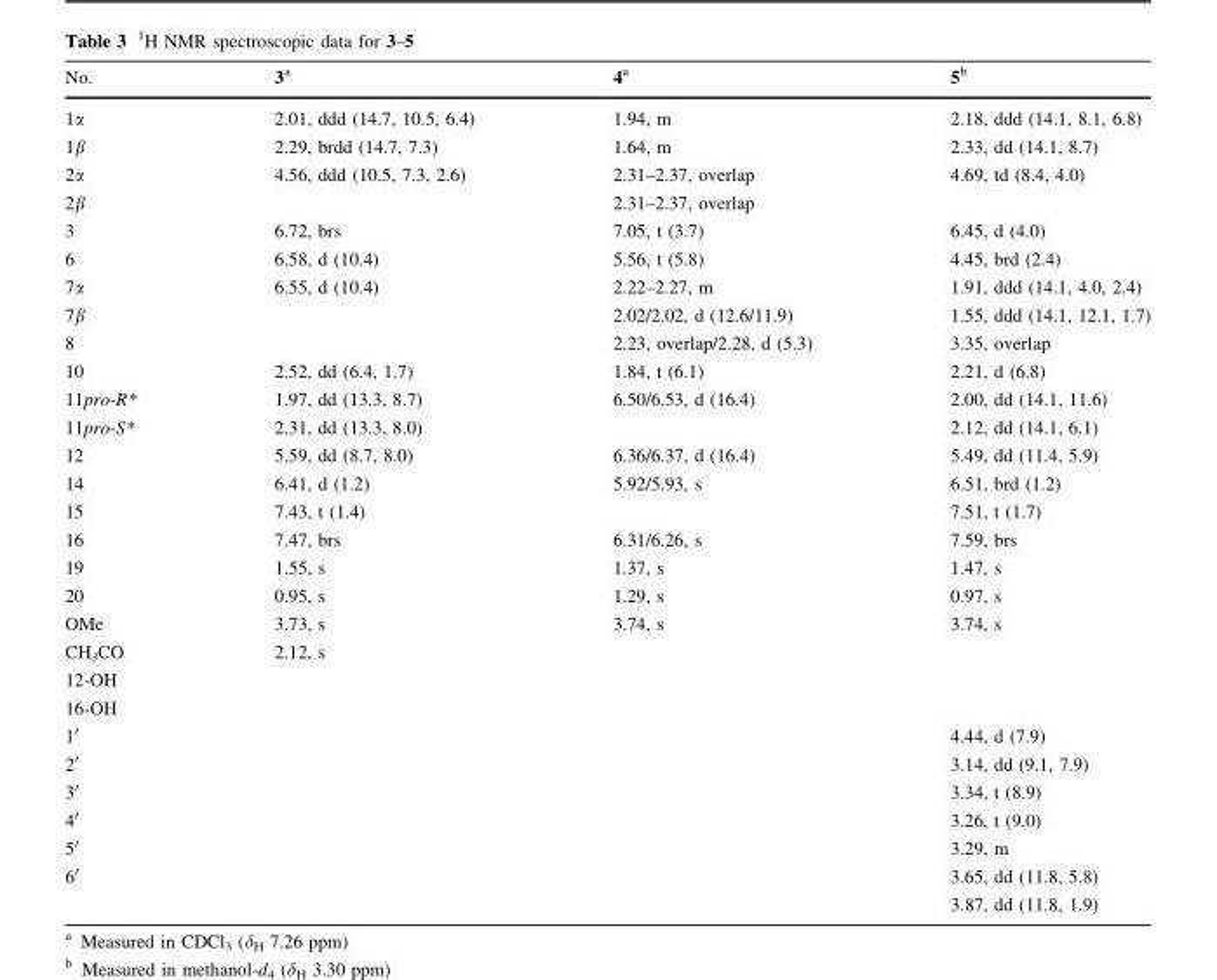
<table><thead><tr><td>No.</td><td>3<sup>a</sup></td><td>4<sup>a</sup></td><td>5<sup>b</sup></td></tr></thead><tbody><tr><td>1α</td><td>2.01, ddd (14.7, 10.5, 6.4)</td><td>1.94, m</td><td>2.18, ddd (14.1, 8.1, 6.8)</td></tr><tr><td>1β</td><td>2.29, brdd (14.7, 7.3)</td><td>1.64, m</td><td>2.33, dd (14.1, 8.7)</td></tr><tr><td>2α</td><td>4.56, ddd (10.5, 7.3, 2.6)</td><td>2.31–2.37, overlap</td><td>4.69, td (8.4, 4.0)</td></tr><tr><td>2β</td><td></td><td>2.31–2.37, overlap</td><td></td></tr><tr><td>3</td><td>6.72, brs</td><td>7.05, t (3.7)</td><td>6.45, d (4.0)</td></tr><tr><td>6</td><td>6.58, d (10.4)</td><td>5.56, t (5.8)</td><td>4.45, brd (2.4)</td></tr><tr><td>7α</td><td>6.55, d (10.4)</td><td>2.22–2.27, m</td><td>1.91, ddd (14.1, 4.0, 2.4)</td></tr><tr><td>7β</td><td></td><td>2.02/2.02, d (12.6/11.9)</td><td>1.55, ddd (14.1, 12.1, 1.7)</td></tr><tr><td>8</td><td></td><td>2.23, overlap/2.28, d (5.3)</td><td>3.35, overlap</td></tr><tr><td>10</td><td>2.52, dd (6.4, 1.7)</td><td>1.84, t (6.1)</td><td>2.21, d (6.8)</td></tr><tr><td>11pro-R*</td><td>1.97, dd (13.3, 8.7)</td><td>6.50/6.53, d (16.4)</td><td>2.00, dd (14.1, 11.6)</td></tr><tr><td>11pro-S*</td><td>2.31, dd (13.3, 8.0)</td><td></td><td>2.12, dd (14.1, 6.1)</td></tr><tr><td>12</td><td>5.59, dd (8.7, 8.0)</td><td>6.36/6.37, d (16.4)</td><td>5.49, dd (11.4, 5.9)</td></tr><tr><td>14</td><td>6.41, d (1.2)</td><td>5.92/5.93, s</td><td>6.51, brd (1.2)</td></tr><tr><td>15</td><td>7.43, t (1.4)</td><td></td><td>7.51, t (1.7)</td></tr><tr><td>16</td><td>7.47, brs</td><td>6.31/6.26, s</td><td>7.59, brs</td></tr><tr><td>19</td><td>1.55, s</td><td>1.37, s</td><td>1.47, s</td></tr><tr><td>20</td><td>0.95, s</td><td>1.29, s</td><td>0.97, s</td></tr><tr><td>OMe</td><td>3.73, s</td><td>3.74, s</td><td>3.74, s</td></tr><tr><td>CH<sub>3</sub>CO</td><td>2.12, s</td><td></td><td></td></tr><tr><td colspan="4">12-OH</td></tr><tr><td colspan="4">16-OH</td></tr><tr><td>1′</td><td></td><td></td><td>4.44, d (7.9)</td></tr><tr><td>2′</td><td></td><td></td><td>3.14, dd (9.1, 7.9)</td></tr><tr><td>3′</td><td></td><td></td><td>3.34, t (8.9)</td></tr><tr><td>4′</td><td></td><td></td><td>3.26, t (9.0)</td></tr><tr><td>5′</td><td></td><td></td><td>3.29, m</td></tr><tr><td>6′</td><td></td><td></td><td>3.65, dd (11.8, 5.8) 3.87, dd (11.8, 1.9)</td></tr></tbody></table>